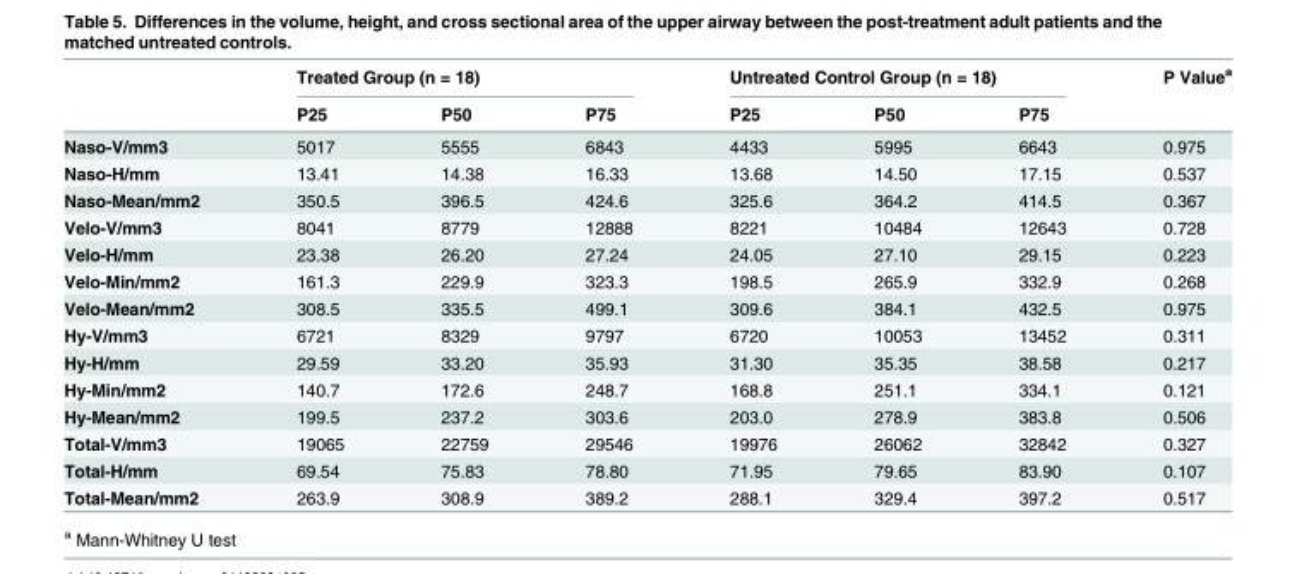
<table><thead><tr><td rowspan="2"></td><td colspan="3">Treated Group (n = 18)</td><td colspan="3">Untreated Control Group (n = 18)</td><td rowspan="2">P Value<sup>a</sup></td></tr><tr><td>P25</td><td>P50</td><td>P75</td><td>P25</td><td>P50</td><td>P75</td></tr></thead><tbody><tr><td>Naso-V/mm3</td><td>5017</td><td>5555</td><td>6843</td><td>4433</td><td>5995</td><td>6643</td><td>0.975</td></tr><tr><td>Naso-H/mm</td><td>13.41</td><td>14.38</td><td>16.33</td><td>13.68</td><td>14.50</td><td>17.15</td><td>0.537</td></tr><tr><td>Naso-Mean/mm2</td><td>350.5</td><td>396.5</td><td>424.6</td><td>325.6</td><td>364.2</td><td>414.5</td><td>0.367</td></tr><tr><td>Velo-V/mm3</td><td>8041</td><td>8779</td><td>12888</td><td>8221</td><td>10484</td><td>12643</td><td>0.728</td></tr><tr><td>Velo-H/mm</td><td>23.38</td><td>26.20</td><td>27.24</td><td>24.05</td><td>27.10</td><td>29.15</td><td>0.223</td></tr><tr><td>Velo-Min/mm2</td><td>161.3</td><td>229.9</td><td>323.3</td><td>198.5</td><td>265.9</td><td>332.9</td><td>0.268</td></tr><tr><td>Velo-Mean/mm2</td><td>308.5</td><td>335.5</td><td>499.1</td><td>309.6</td><td>384.1</td><td>432.5</td><td>0.975</td></tr><tr><td>Hy-V/mm3</td><td>6721</td><td>8329</td><td>9797</td><td>6720</td><td>10053</td><td>13452</td><td>0.311</td></tr><tr><td>Hy-H/mm</td><td>29.59</td><td>33.20</td><td>35.93</td><td>31.30</td><td>35.35</td><td>38.58</td><td>0.217</td></tr><tr><td>Hy-Min/mm2</td><td>140.7</td><td>172.6</td><td>248.7</td><td>168.8</td><td>251.1</td><td>334.1</td><td>0.121</td></tr><tr><td>Hy-Mean/mm2</td><td>199.5</td><td>237.2</td><td>303.6</td><td>203.0</td><td>278.9</td><td>383.8</td><td>0.506</td></tr><tr><td>Total-V/mm3</td><td>19065</td><td>22759</td><td>29546</td><td>19976</td><td>26062</td><td>32842</td><td>0.327</td></tr><tr><td>Total-H/mm</td><td>69.54</td><td>75.83</td><td>78.80</td><td>71.95</td><td>79.65</td><td>83.90</td><td>0.107</td></tr><tr><td>Total-Mean/mm2</td><td>263.9</td><td>308.9</td><td>389.2</td><td>288.1</td><td>329.4</td><td>397.2</td><td>0.517</td></tr></tbody></table>